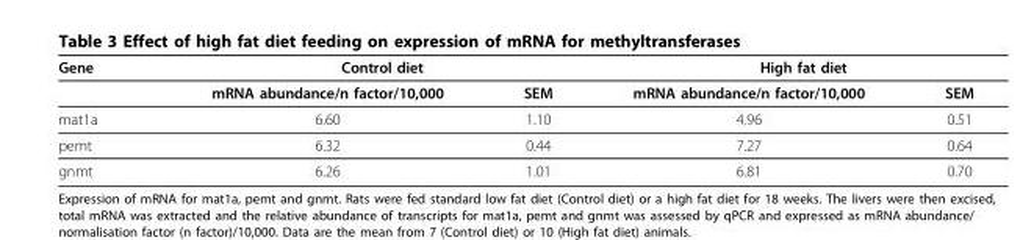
<table><thead><tr><td rowspan="2">Gene</td><td colspan="2">Control diet</td><td colspan="2">High fat diet</td></tr><tr><td>mRNA abundance/n factor/10,000</td><td>SEM</td><td>mRNA abundance/n factor/10,000</td><td>SEM</td></tr></thead><tbody><tr><td>mat1a</td><td>6.60</td><td>1.10</td><td>4.96</td><td>0.51</td></tr><tr><td>pemt</td><td>6.32</td><td>0.44</td><td>7.27</td><td>0.64</td></tr><tr><td>gnmt</td><td>6.26</td><td>1.01</td><td>6.81</td><td>0.70</td></tr></tbody></table>